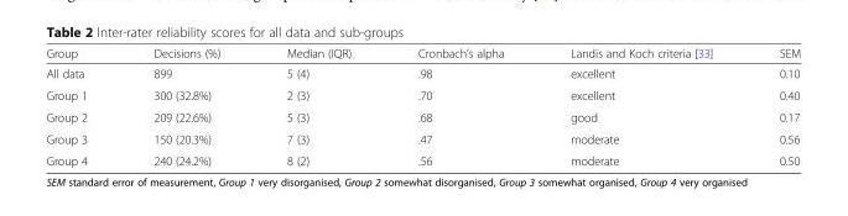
<table><thead><tr><td>Group</td><td>Decisions (%)</td><td>Median (IQR)</td><td>Cronbach’s alpha</td><td>Landis and Koch criteria [33]</td><td>SEM</td></tr></thead><tbody><tr><td>All data</td><td>899</td><td>5 (4)</td><td>.98</td><td>excellent</td><td>0.10</td></tr><tr><td>Group 1</td><td>300 (32.8%)</td><td>2 (3)</td><td>.70</td><td>excellent</td><td>0.40</td></tr><tr><td>Group 2</td><td>209 (22.6%)</td><td>5 (3)</td><td>.68</td><td>good</td><td>0.17</td></tr><tr><td>Group 3</td><td>150 (20.3%)</td><td>7 (3)</td><td>.47</td><td>moderate</td><td>0.56</td></tr><tr><td>Group 4</td><td>240 (24.2%)</td><td>8 (2)</td><td>.56</td><td>moderate</td><td>0.50</td></tr></tbody></table>